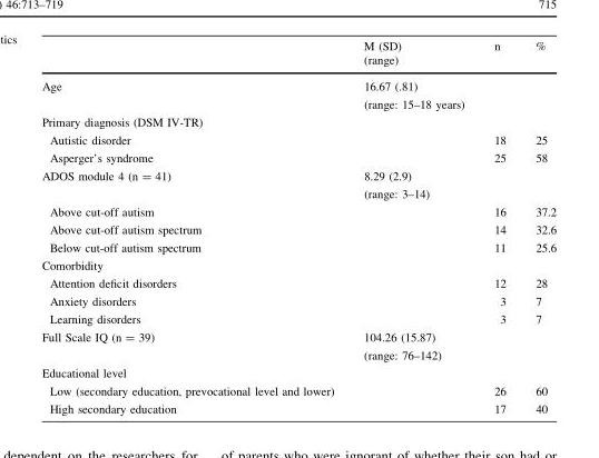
<table><thead><tr><td></td><td>M (SD) (range)</td><td>n</td><td>%</td></tr></thead><tbody><tr><td>Age</td><td>16.67 (.81) (range: 15–18 years)</td><td></td><td></td></tr><tr><td colspan="4">Primary diagnosis (DSM IV-TR)</td></tr><tr><td>Autistic disorder</td><td></td><td>18</td><td>25</td></tr><tr><td>Asperger’s syndrome</td><td></td><td>25</td><td>58</td></tr><tr><td>ADOS module 4 (n = 41)</td><td>8.29 (2.9) (range: 3–14)</td><td></td><td></td></tr><tr><td>Above cut-off autism</td><td></td><td>16</td><td>37.2</td></tr><tr><td>Above cut-off autism spectrum</td><td></td><td>14</td><td>32.6</td></tr><tr><td>Below cut-off autism spectrum</td><td></td><td>11</td><td>25.6</td></tr><tr><td colspan="4">Comorbidity</td></tr><tr><td>Attention deficit disorders</td><td></td><td>12</td><td>28</td></tr><tr><td>Anxiety disorders</td><td></td><td>3</td><td>7</td></tr><tr><td>Learning disorders</td><td></td><td>3</td><td>7</td></tr><tr><td>Full Scale IQ (n = 39)</td><td>104.26 (15.87) (range: 76–142)</td><td></td><td></td></tr><tr><td colspan="4">Educational level</td></tr><tr><td>Low (secondary education, prevocational level and lower)</td><td></td><td>26</td><td>60</td></tr><tr><td>High secondary education</td><td></td><td>17</td><td>40</td></tr></tbody></table>